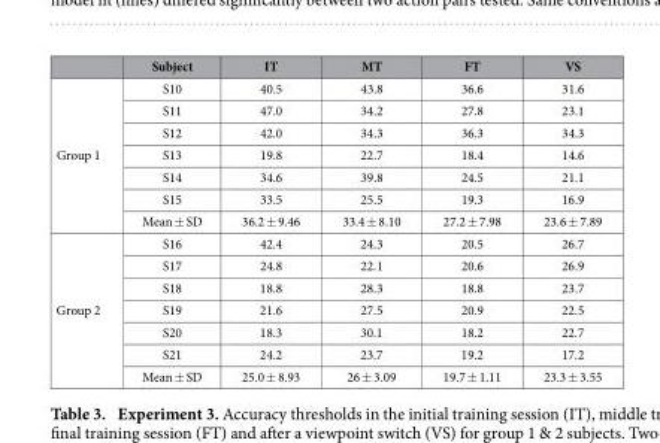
<table><thead><tr><td></td><td>Subject</td><td>IT</td><td>MT</td><td>FT</td><td>VS</td></tr></thead><tbody><tr><td rowspan="7">Group 1</td><td>S10</td><td>40.5</td><td>43.8</td><td>36.6</td><td>31.6</td></tr><tr><td>S11</td><td>47.0</td><td>34.2</td><td>27.8</td><td>23.1</td></tr><tr><td>S12</td><td>42.0</td><td>34.3</td><td>36.3</td><td>34.3</td></tr><tr><td>S13</td><td>19.8</td><td>22.7</td><td>18.4</td><td>14.6</td></tr><tr><td>S14</td><td>34.6</td><td>39.8</td><td>24.5</td><td>21.1</td></tr><tr><td>S15</td><td>33.5</td><td>25.5</td><td>19.3</td><td>16.9</td></tr><tr><td>Mean ± SD</td><td>36.2 ± 9.46</td><td>33.4 ± 8.10</td><td>27.2 ± 7.98</td><td>23.6 ± 7.89</td></tr><tr><td rowspan="7">Group 2</td><td>S16</td><td>42.4</td><td>24.3</td><td>20.5</td><td>26.7</td></tr><tr><td>S17</td><td>24.8</td><td>22.1</td><td>20.6</td><td>26.9</td></tr><tr><td>S18</td><td>18.8</td><td>28.3</td><td>18.8</td><td>23.7</td></tr><tr><td>S19</td><td>21.6</td><td>27.5</td><td>20.9</td><td>22.5</td></tr><tr><td>S20</td><td>18.3</td><td>30.1</td><td>18.2</td><td>22.7</td></tr><tr><td>S21</td><td>24.2</td><td>23.7</td><td>19.2</td><td>17.2</td></tr><tr><td>Mean ± SD</td><td>25.0 ± 8.93</td><td>26 ± 3.09</td><td>19.7 ± 1.11</td><td>23.3 ± 3.55</td></tr></tbody></table>